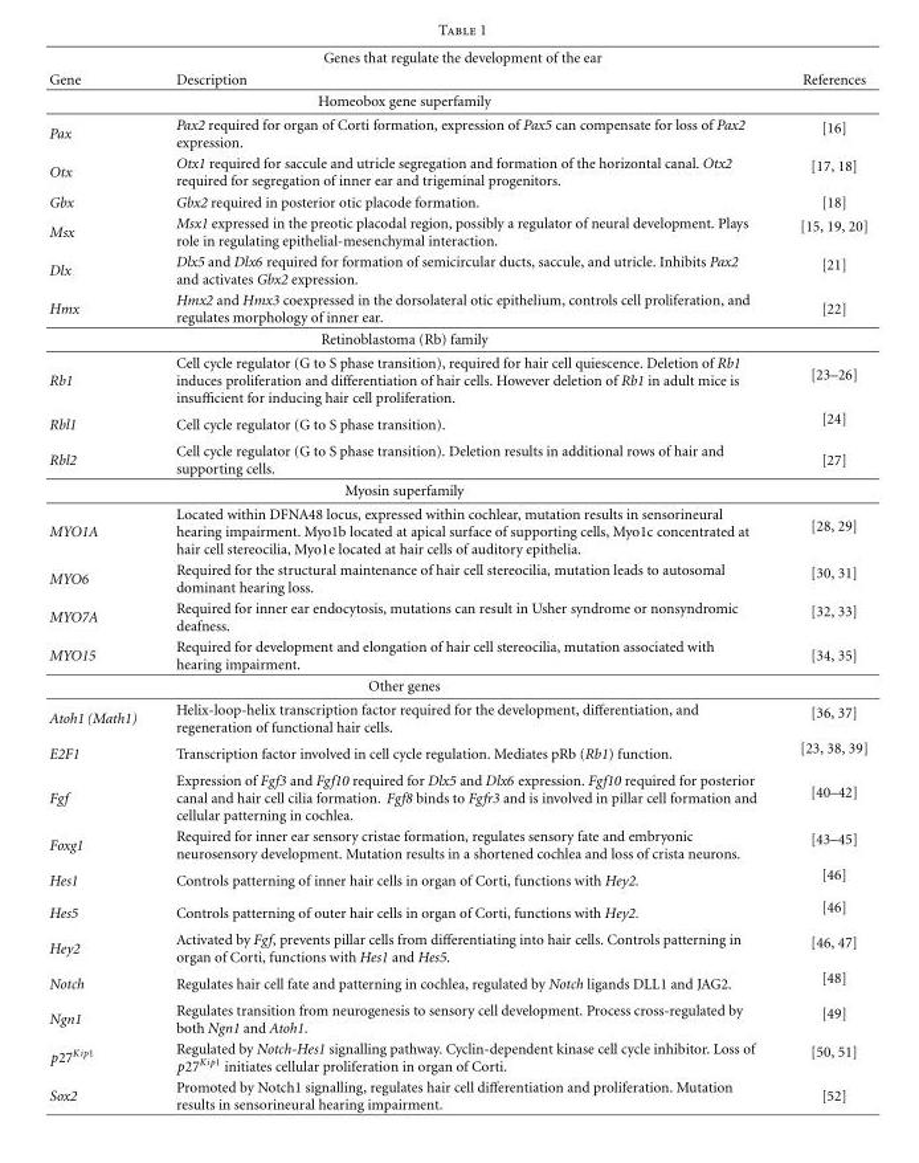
<table><thead><tr><td colspan="3">Genes that regulate the development of the ear</td></tr><tr><td>Gene</td><td>Description</td><td>References</td></tr></thead><tbody><tr><td colspan="3">Homeobox gene superfamily</td></tr><tr><td>Pax</td><td>Pax2 required for organ of Corti formation, expression of Pax5 can compensate for loss of Pax2 expression.</td><td>[16]</td></tr><tr><td>Otx</td><td>Otx1 required for saccule and utricle segregation and formation of the horizontal canal. Otx2 required for segregation of inner ear and trigeminal progenitors.</td><td>[17, 18]</td></tr><tr><td>Gbx</td><td>Gbx2 required in posterior otic placode formation.</td><td>[18]</td></tr><tr><td>Msx</td><td>Msx1 expressed in the preotic placodal region, possibly a regulator of neural development. Plays role in regulating epithelial-mesenchymal interaction.</td><td>[15, 19, 20]</td></tr><tr><td>Dlx</td><td>Dlx5 and Dlx6 required for formation of semicircular ducts, saccule, and utricle. Inhibits Pax2 and activates Gbx2 expression.</td><td>[21]</td></tr><tr><td>Hmx</td><td>Hmx2 and Hmx3 coexpressed in the dorsolateral otic epithelium, controls cell proliferation, and regulates morphology of inner ear.</td><td>[22]</td></tr><tr><td colspan="3">Retinoblastoma (Rb) family</td></tr><tr><td>Rb1</td><td>Cell cycle regulator (G to S phase transition), required for hair cell quiescence. Deletion of Rb1 induces proliferation and differentiation of hair cells. However deletion of Rb1 in adult mice is insufficient for inducing hair cell proliferation.</td><td>[23–26]</td></tr><tr><td>Rbl1</td><td>Cell cycle regulator (G to S phase transition).</td><td>[24]</td></tr><tr><td>Rbl2</td><td>Cell cycle regulator (G to S phase transition). Deletion results in additional rows of hair and supporting cells.</td><td>[27]</td></tr><tr><td colspan="3">Myosin superfamily</td></tr><tr><td>MYO1A</td><td>Located within DFNA48 locus, expressed within cochlear, mutation results in sensorineural hearing impairment. Myo1b located at apical surface of supporting cells, Myo1c concentrated at hair cell stereocilia, Myo1e located at hair cells of auditory epithelia.</td><td>[28, 29]</td></tr><tr><td>MYO6</td><td>Required for the structural maintenance of hair cell stereocilia, mutation leads to autosomal dominant hearing loss.</td><td>[30, 31]</td></tr><tr><td>MYO7A</td><td>Required for inner ear endocytosis, mutations can result in Usher syndrome or nonsyndromic deafness.</td><td>[32, 33]</td></tr><tr><td>MYO15</td><td>Required for development and elongation of hair cell stereocilia, mutation associated with hearing impairment.</td><td>[34, 35]</td></tr><tr><td colspan="3">Other genes</td></tr><tr><td>Atoh1 (Math1)</td><td>Helix-loop-helix transcription factor required for the development, differentiation, and regeneration of functional hair cells.</td><td>[36, 37]</td></tr><tr><td>E2F1</td><td>Transcription factor involved in cell cycle regulation. Mediates pRb (Rb1) function.</td><td>[23, 38, 39]</td></tr><tr><td>Fgf</td><td>Expression of Fgf3 and Fgf10 required for Dlx5 and Dlx6 expression. Fgf10 required for posterior canal and hair cell cilia formation. Fgf8 binds to Fgfr3 and is involved in pillar cell formation and cellular patterning in cochlea.</td><td>[40–42]</td></tr><tr><td>Foxg1</td><td>Required for inner ear sensory cristae formation, regulates sensory fate and embryonic neurosensory development. Mutation results in a shortened cochlea and loss of crista neurons.</td><td>[43–45]</td></tr><tr><td>Hes1</td><td>Controls patterning of inner hair cells in organ of Corti, functions with Hey2.</td><td>[46]</td></tr><tr><td>Hes5</td><td>Controls patterning of outer hair cells in organ of Corti, functions with Hey2.</td><td>[46]</td></tr><tr><td>Hey2</td><td>Activated by Fgf, prevents pillar cells from differentiating into hair cells. Controls patterning in organ of Corti, functions with Hes1 and Hes5.</td><td>[46, 47]</td></tr><tr><td>Notch</td><td>Regulates hair cell fate and patterning in cochlea, regulated by Notch ligands DLL1 and JAG2.</td><td>[48]</td></tr><tr><td>Ngn1</td><td>Regulates transition from neurogenesis to sensory cell development. Process cross-regulated by both Ngn1 and Atoh1.</td><td>[49]</td></tr><tr><td>p27<sup>Kip1</sup></td><td>Regulated by Notch-Hes1 signalling pathway. Cyclin-dependent kinase cell cycle inhibitor. Loss of p27<sup>Kip1</sup> initiates cellular proliferation in organ of Corti.</td><td>[50, 51]</td></tr><tr><td>Sox2</td><td>Promoted by Notch1 signalling, regulates hair cell differentiation and proliferation. Mutation results in sensorineural hearing impairment.</td><td>[52]</td></tr></tbody></table>